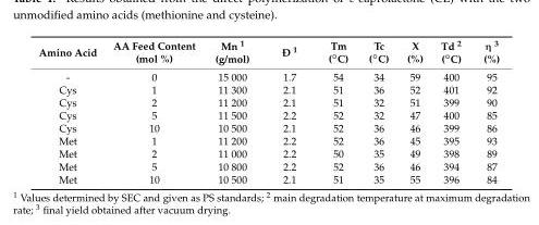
<table><thead><tr><td>Amino Acid</td><td>AA Feed Content (mol %)</td><td>Mn <sup>1</sup> (g/mol)</td><td>Đ <sup>1</sup></td><td>Tm (◦C)</td><td>Tc (◦C)</td><td>X (%)</td><td>Td 2 (◦C)</td><td>η <sup>3</sup> (%)</td></tr></thead><tbody><tr><td>-</td><td>0</td><td>15 000</td><td>1.7</td><td>54</td><td>34</td><td>59</td><td>400</td><td>95</td></tr><tr><td>Cys</td><td>1</td><td>11 300</td><td>2.1</td><td>51</td><td>36</td><td>52</td><td>401</td><td>92</td></tr><tr><td>Cys</td><td>2</td><td>11 200</td><td>2.1</td><td>51</td><td>32</td><td>51</td><td>399</td><td>90</td></tr><tr><td>Cys</td><td>5</td><td>11 500</td><td>2.2</td><td>52</td><td>32</td><td>47</td><td>400</td><td>85</td></tr><tr><td>Cys</td><td>10</td><td>10 500</td><td>2.1</td><td>52</td><td>36</td><td>46</td><td>399</td><td>86</td></tr><tr><td>Met</td><td>1</td><td>11 200</td><td>2.2</td><td>52</td><td>36</td><td>45</td><td>395</td><td>93</td></tr><tr><td>Met</td><td>2</td><td>11 000</td><td>2.2</td><td>50</td><td>35</td><td>49</td><td>398</td><td>89</td></tr><tr><td>Met</td><td>5</td><td>10 800</td><td>2.2</td><td>52</td><td>36</td><td>46</td><td>394</td><td>87</td></tr><tr><td>Met</td><td>10</td><td>10 500</td><td>2.1</td><td>51</td><td>35</td><td>55</td><td>396</td><td>84</td></tr></tbody></table>